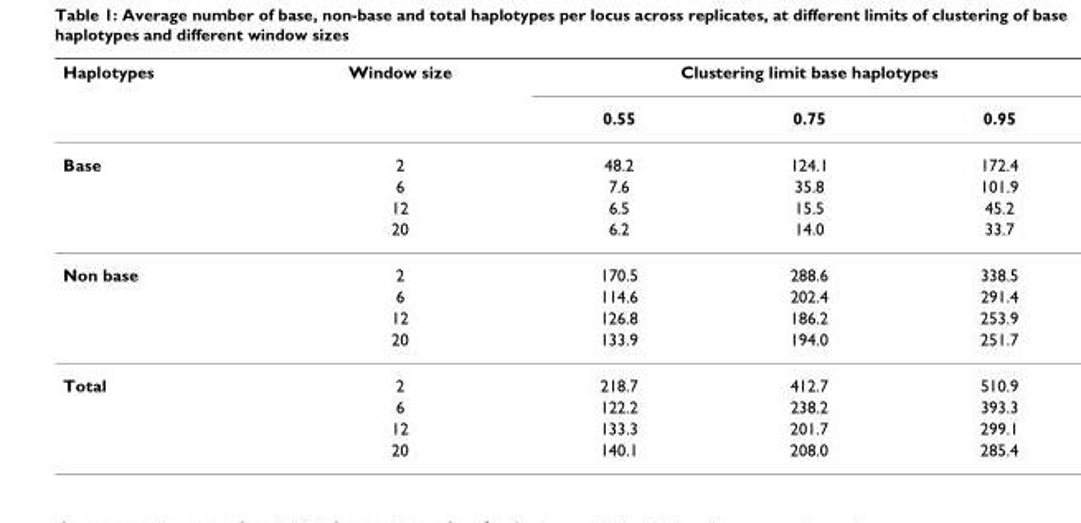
<table><thead><tr><td rowspan="2">Haplotypes</td><td rowspan="2">Window size</td><td colspan="3">Clustering limit base haplotypes</td></tr><tr><td>0.55</td><td>0.75</td><td>0.95</td></tr></thead><tbody><tr><td rowspan="4">Base</td><td>2</td><td>48.2</td><td>124.1</td><td>172.4</td></tr><tr><td>6</td><td>7.6</td><td>35.8</td><td>101.9</td></tr><tr><td>12</td><td>6.5</td><td>15.5</td><td>45.2</td></tr><tr><td>20</td><td>6.2</td><td>14.0</td><td>33.7</td></tr><tr><td rowspan="4">Non base</td><td>2</td><td>170.5</td><td>288.6</td><td>338.5</td></tr><tr><td>6</td><td>114.6</td><td>202.4</td><td>291.4</td></tr><tr><td>12</td><td>126.8</td><td>186.2</td><td>253.9</td></tr><tr><td>20</td><td>133.9</td><td>194.0</td><td>251.7</td></tr><tr><td rowspan="4">Total</td><td>2</td><td>218.7</td><td>412.7</td><td>510.9</td></tr><tr><td>6</td><td>122.2</td><td>238.2</td><td>393.3</td></tr><tr><td>12</td><td>133.3</td><td>201.7</td><td>299.1</td></tr><tr><td>20</td><td>140.1</td><td>208.0</td><td>285.4</td></tr></tbody></table>